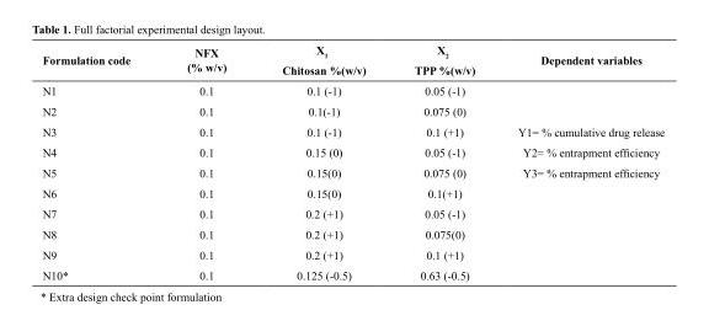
<table><thead><tr><td rowspan="2">Formulation code</td><td rowspan="2">NFX (% w/v)</td><td rowspan="2">X<sub>1</sub> Chitosan %(w/v)</td><td rowspan="2">X<sub>2</sub> TPP %(w/v)</td><td rowspan="2">Dependent variables</td></tr><tr></tr></thead><tbody><tr><td>N1</td><td>0.1</td><td>0.1 (-1)</td><td>0.05 (-1)</td><td></td></tr><tr><td>N2</td><td>0.1</td><td>0.1(-1)</td><td>0.075 (0)</td><td></td></tr><tr><td>N3</td><td>0.1</td><td>0.1 (-1)</td><td>0.1 (+1)</td><td>Y1= % cumulative drug release</td></tr><tr><td>N4</td><td>0.1</td><td>0.15 (0)</td><td>0.05 (-1)</td><td>Y2= % entrapment efficiency</td></tr><tr><td>N5</td><td>0.1</td><td>0.15(0)</td><td>0.075 (0)</td><td>Y3= % entrapment efficiency</td></tr><tr><td>N6</td><td>0.1</td><td>0.15(0)</td><td>0.1(+1)</td><td></td></tr><tr><td>N7</td><td>0.1</td><td>0.2 (+1)</td><td>0.05 (-1)</td><td></td></tr><tr><td>N8</td><td>0.1</td><td>0.2 (+1)</td><td>0.075(0)</td><td></td></tr><tr><td>N9</td><td>0.1</td><td>0.2 (+1)</td><td>0.1 (+1)</td><td></td></tr><tr><td>N10*</td><td>0.1</td><td>0.125 (-0.5)</td><td>0.63 (-0.5)</td><td></td></tr></tbody></table>